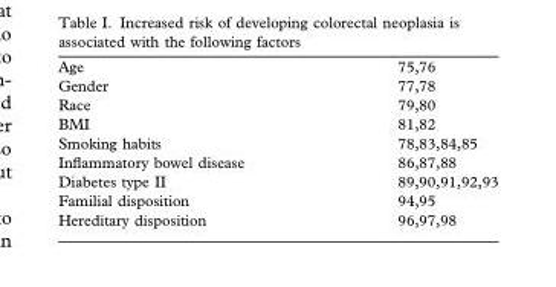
<table><tbody><tr><td>Age</td><td>75,76</td></tr><tr><td>Gender</td><td>77,78</td></tr><tr><td>Race</td><td>79,80</td></tr><tr><td>BMI</td><td>81,82</td></tr><tr><td>Smoking habits</td><td>78,83,84,85</td></tr><tr><td>Inflammatory bowel disease</td><td>86,87,88</td></tr><tr><td>Diabetes type II</td><td>89,90,91,92,93</td></tr><tr><td>Familial disposition</td><td>94,95</td></tr><tr><td>Hereditary disposition</td><td>96,97,98</td></tr></tbody></table>